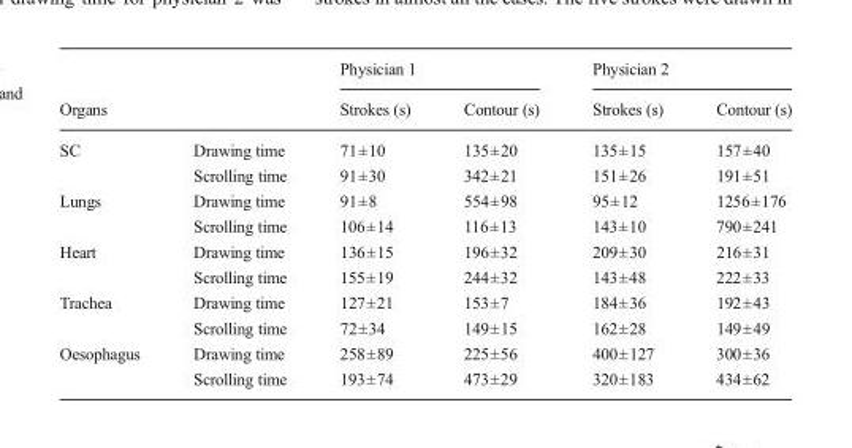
<table><thead><tr><td rowspan="2">Organs</td><td rowspan="2"></td><td colspan="2">Physician 1</td><td colspan="2">Physician 2</td></tr><tr><td>Strokes (s)</td><td>Contour (s)</td><td>Strokes (s)</td><td>Contour (s)</td></tr></thead><tbody><tr><td rowspan="2">SC</td><td>Drawing time</td><td>71±10</td><td>135±20</td><td>135±15</td><td>157±40</td></tr><tr><td>Scrolling time</td><td>91±30</td><td>342±21</td><td>151±26</td><td>191±51</td></tr><tr><td rowspan="2">Lungs</td><td>Drawing time</td><td>91±8</td><td>554±98</td><td>95±12</td><td>1256±176</td></tr><tr><td>Scrolling time</td><td>106±14</td><td>116±13</td><td>143±10</td><td>790±241</td></tr><tr><td rowspan="2">Heart</td><td>Drawing time</td><td>136±15</td><td>196±32</td><td>209±30</td><td>216±31</td></tr><tr><td>Scrolling time</td><td>155±19</td><td>244±32</td><td>143±48</td><td>222±33</td></tr><tr><td rowspan="2">Trachea</td><td>Drawing time</td><td>127±21</td><td>153±7</td><td>184±36</td><td>192±43</td></tr><tr><td>Scrolling time</td><td>72±34</td><td>149±15</td><td>162±28</td><td>149±49</td></tr><tr><td rowspan="2">Oesophagus</td><td>Drawing time</td><td>258±89</td><td>225±56</td><td>400±127</td><td>300±36</td></tr><tr><td>Scrolling time</td><td>193±74</td><td>473±29</td><td>320±183</td><td>434±62</td></tr></tbody></table>